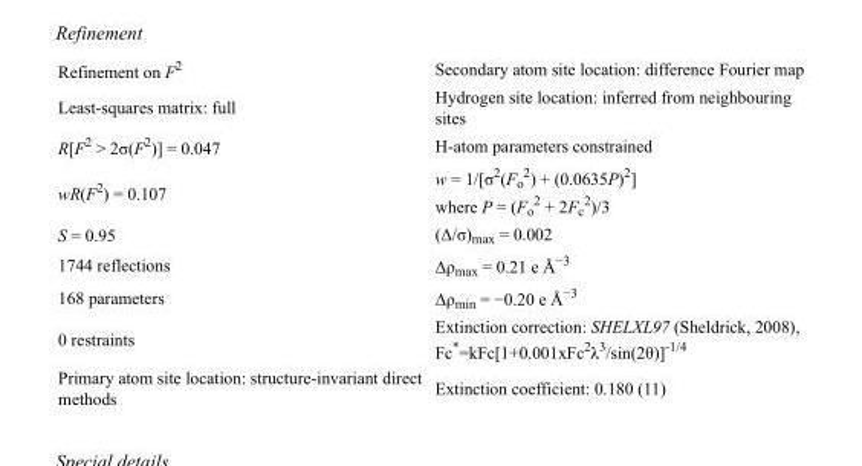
<table><tbody><tr><td>Refinement on F<sup>2</sup></td><td>Secondary atom site location: difference Fourier map</td></tr><tr><td>Least-squares matrix: full</td><td>Hydrogen site location: inferred from neighbouring sites</td></tr><tr><td>R[F<sup>2</sup> &gt; 2σ(F<sup>2</sup>)] = 0.047</td><td>H-atom parameters constrained</td></tr><tr><td>wR(F<sup>2</sup>) = 0.107</td><td>w = 1/[σ<sup>2</sup>(F<sub>o</sub> <sup>2</sup>) + (0.0635P)<sup>2</sup>] where P = (F<sub>o</sub> <sup>2</sup> + 2F<sub>c</sub> <sup>2</sup>)/3</td></tr><tr><td>S = 0.95</td><td>(Δ/σ)<sub>max</sub> = 0.002</td></tr><tr><td>1744 reflections</td><td>Δρ<sub>max</sub> = 0.21 e Å<sup>−3</sup></td></tr><tr><td>168 parameters</td><td>Δρ<sub>min</sub> = −0.20 e Å<sup>−3</sup></td></tr><tr><td>0 restraints</td><td>Extinction correction: SHELXL97 (Sheldrick, 2008), Fc*=kFc[1+0.001xFc<sup>2</sup>λ<sup>3</sup>/sin(2θ)]<sup>-1/4</sup></td></tr><tr><td>Primary atom site location: structure-invariant direct methods</td><td>Extinction coefficient: 0.180 (11)</td></tr></tbody></table>